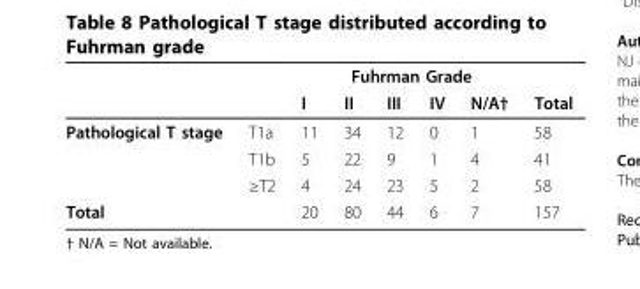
<table><thead><tr><td rowspan="2"></td><td rowspan="2"></td><td colspan="5">Fuhrman Grade</td><td rowspan="2">Total</td></tr><tr><td>I</td><td>II</td><td>III</td><td>IV</td><td>N/A†</td></tr></thead><tbody><tr><td rowspan="3">Pathological T stage</td><td>T1a</td><td>11</td><td>34</td><td>12</td><td>0</td><td>1</td><td>58</td></tr><tr><td>T1b</td><td>5</td><td>22</td><td>9</td><td>1</td><td>4</td><td>41</td></tr><tr><td>≥T2</td><td>4</td><td>24</td><td>23</td><td>5</td><td>2</td><td>58</td></tr><tr><td colspan="2">Total</td><td>20</td><td>80</td><td>44</td><td>6</td><td>7</td><td>157</td></tr></tbody></table>